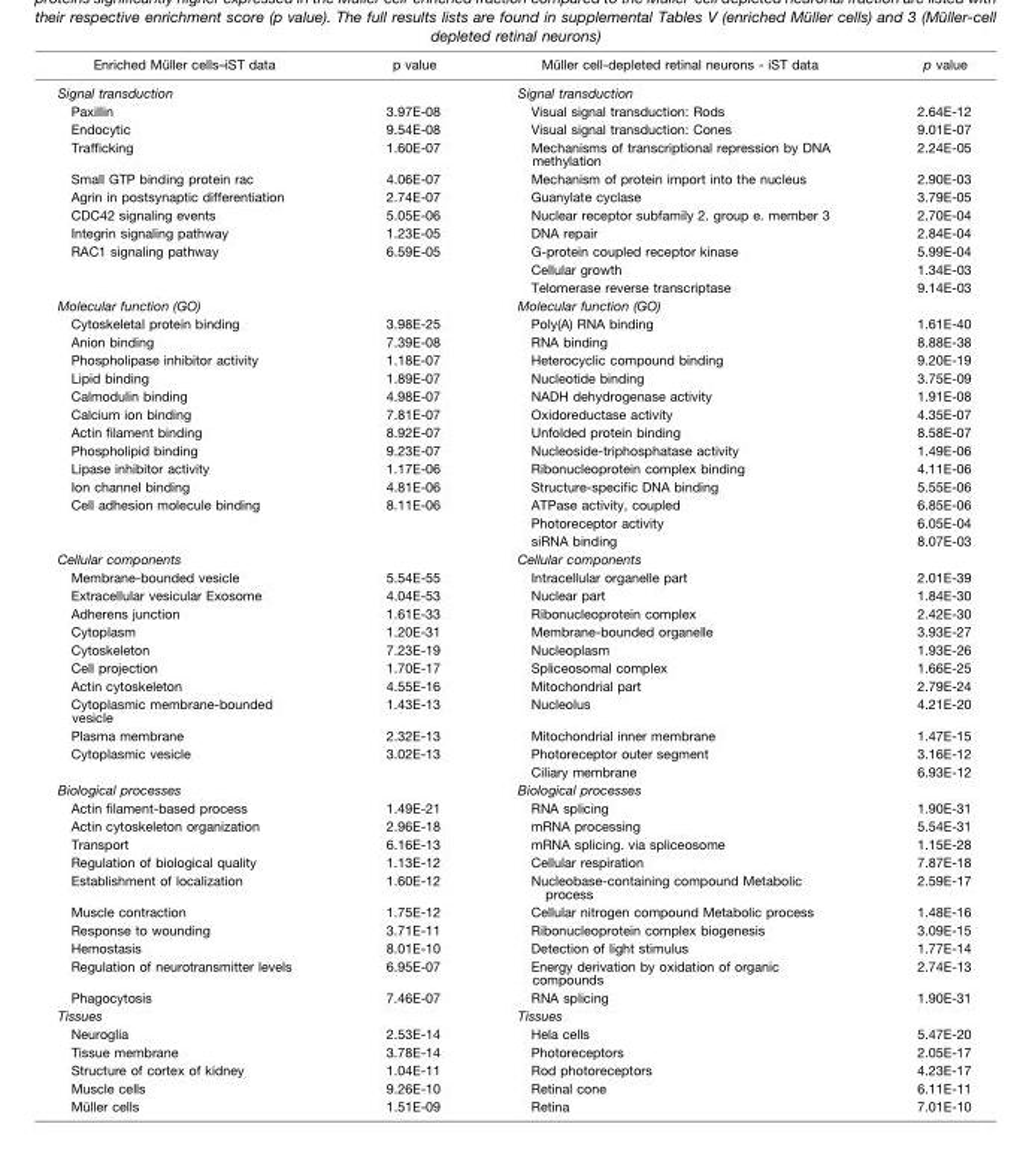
<table><thead><tr><td>Enriched Müller cells–iST data</td><td>p value</td><td>Müller cell-depleted retinal neurons - iST data</td><td>p value</td></tr></thead><tbody><tr><td>Signal transduction</td><td></td><td>Signal transduction</td><td></td></tr><tr><td>Paxillin</td><td>3.97E-08</td><td>Visual signal transduction: Rods</td><td>2.64E-12</td></tr><tr><td>Endocytic</td><td>9.54E-08</td><td>Visual signal transduction: Cones</td><td>9.01E-07</td></tr><tr><td>Trafficking</td><td>1.60E-07</td><td>Mechanisms of transcriptional repression by DNA methylation</td><td>2.24E-05</td></tr><tr><td>Small GTP binding protein rac</td><td>4.06E-07</td><td>Mechanism of protein import into the nucleus</td><td>2.90E-03</td></tr><tr><td>Agrin in postsynaptic differentiation</td><td>2.74E-07</td><td>Guanylate cyclase</td><td>3.79E-05</td></tr><tr><td>CDC42 signaling events</td><td>5.05E-06</td><td>Nuclear receptor subfamily 2. group e. member 3</td><td>2.70E-04</td></tr><tr><td>Integrin signaling pathway</td><td>1.23E-05</td><td>DNA repair</td><td>2.84E-04</td></tr><tr><td rowspan="3">RAC1 signaling pathway</td><td>6.59E-05</td><td>G-protein coupled receptor kinase</td><td>5.99E-04</td></tr><tr><td></td><td>Cellular growth</td><td>1.34E-03</td></tr><tr><td></td><td>Telomerase reverse transcriptase</td><td>9.14E-03</td></tr><tr><td>Molecular function (GO)</td><td></td><td>Molecular function (GO)</td><td></td></tr><tr><td>Cytoskeletal protein binding</td><td>3.98E-25</td><td>Poly(A) RNA binding</td><td>1.61E-40</td></tr><tr><td>Anion binding</td><td>7.39E-08</td><td>RNA binding</td><td>8.88E-38</td></tr><tr><td>Phospholipase inhibitor activity</td><td>1.18E-07</td><td>Heterocyclic compound binding</td><td>9.20E-19</td></tr><tr><td>Lipid binding</td><td>1.89E-07</td><td>Nucleotide binding</td><td>3.75E-09</td></tr><tr><td>Calmodulin binding</td><td>4.98E-07</td><td>NADH dehydrogenase activity</td><td>1.91E-08</td></tr><tr><td>Calcium ion binding</td><td>7.81E-07</td><td>Oxidoreductase activity</td><td>4.35E-07</td></tr><tr><td>Actin filament binding</td><td>8.92E-07</td><td>Unfolded protein binding</td><td>8.58E-07</td></tr><tr><td>Phospholipid binding</td><td>9.23E-07</td><td>Nucleoside-triphosphatase activity</td><td>1.49E-06</td></tr><tr><td>Lipase inhibitor activity</td><td>1.17E-06</td><td>Ribonucleoprotein complex binding</td><td>4.11E-06</td></tr><tr><td>Ion channel binding</td><td>4.81E-06</td><td>Structure-specific DNA binding</td><td>5.55E-06</td></tr><tr><td rowspan="3">Cell adhesion molecule binding</td><td>8.11E-06</td><td>ATPase activity, coupled</td><td>6.85E-06</td></tr><tr><td></td><td>Photoreceptor activity</td><td>6.05E-04</td></tr><tr><td></td><td>siRNA binding</td><td>8.07E-03</td></tr><tr><td>Cellular components</td><td></td><td>Cellular components</td><td></td></tr><tr><td>Membrane-bounded vesicle</td><td>5.54E-55</td><td>Intracellular organelle part</td><td>2.01E-39</td></tr><tr><td>Extracellular vesicular Exosome</td><td>4.04E-53</td><td>Nuclear part</td><td>1.84E-30</td></tr><tr><td>Adherens junction</td><td>1.61E-33</td><td>Ribonucleoprotein complex</td><td>2.42E-30</td></tr><tr><td>Cytoplasm</td><td>1.20E-31</td><td>Membrane-bounded organelle</td><td>3.93E-27</td></tr><tr><td>Cytoskeleton</td><td>7.23E-19</td><td>Nucleoplasm</td><td>1.93E-26</td></tr><tr><td>Cell projection</td><td>1.70E-17</td><td>Spliceosomal complex</td><td>1.66E-25</td></tr><tr><td>Actin cytoskeleton</td><td>4.55E-16</td><td>Mitochondrial part</td><td>2.79E-24</td></tr><tr><td>Cytoplasmic membrane-bounded vesicle</td><td>1.43E-13</td><td>Nucleolus</td><td>4.21E-20</td></tr><tr><td>Plasma membrane</td><td>2.32E-13</td><td>Mitochondrial inner membrane</td><td>1.47E-15</td></tr><tr><td rowspan="2">Cytoplasmic vesicle</td><td>3.02E-13</td><td>Photoreceptor outer segment</td><td>3.16E-12</td></tr><tr><td></td><td>Ciliary membrane</td><td>6.93E-12</td></tr><tr><td>Biological processes</td><td></td><td>Biological processes</td><td></td></tr><tr><td>Actin filament-based process</td><td>1.49E-21</td><td>RNA splicing</td><td>1.90E-31</td></tr><tr><td>Actin cytoskeleton organization</td><td>2.96E-18</td><td>mRNA processing</td><td>5.54E-31</td></tr><tr><td>Transport</td><td>6.16E-13</td><td>mRNA splicing. via spliceosome</td><td>1.15E-28</td></tr><tr><td>Regulation of biological quality</td><td>1.13E-12</td><td>Cellular respiration</td><td>7.87E-18</td></tr><tr><td>Establishment of localization</td><td>1.60E-12</td><td>Nucleobase-containing compound Metabolic process</td><td>2.59E-17</td></tr><tr><td>Muscle contraction</td><td>1.75E-12</td><td>Cellular nitrogen compound Metabolic process</td><td>1.48E-16</td></tr><tr><td>Response to wounding</td><td>3.71E-11</td><td>Ribonucleoprotein complex biogenesis</td><td>3.09E-15</td></tr><tr><td>Hemostasis</td><td>8.01E-10</td><td>Detection of light stimulus</td><td>1.77E-14</td></tr><tr><td>Regulation of neurotransmitter levels</td><td>6.95E-07</td><td>Energy derivation by oxidation of organic compounds</td><td>2.74E-13</td></tr><tr><td>Phagocytosis</td><td>7.46E-07</td><td>RNA splicing</td><td>1.90E-31</td></tr><tr><td>Tissues</td><td></td><td>Tissues</td><td></td></tr><tr><td>Neuroglia</td><td>2.53E-14</td><td>Hela cells</td><td>5.47E-20</td></tr><tr><td>Tissue membrane</td><td>3.78E-14</td><td>Photoreceptors</td><td>2.05E-17</td></tr><tr><td>Structure of cortex of kidney</td><td>1.04E-11</td><td>Rod photoreceptors</td><td>4.23E-17</td></tr><tr><td>Muscle cells</td><td>9.26E-10</td><td>Retinal cone</td><td>6.11E-11</td></tr><tr><td>Müller cells</td><td>1.51E-09</td><td>Retina</td><td>7.01E-10</td></tr></tbody></table>